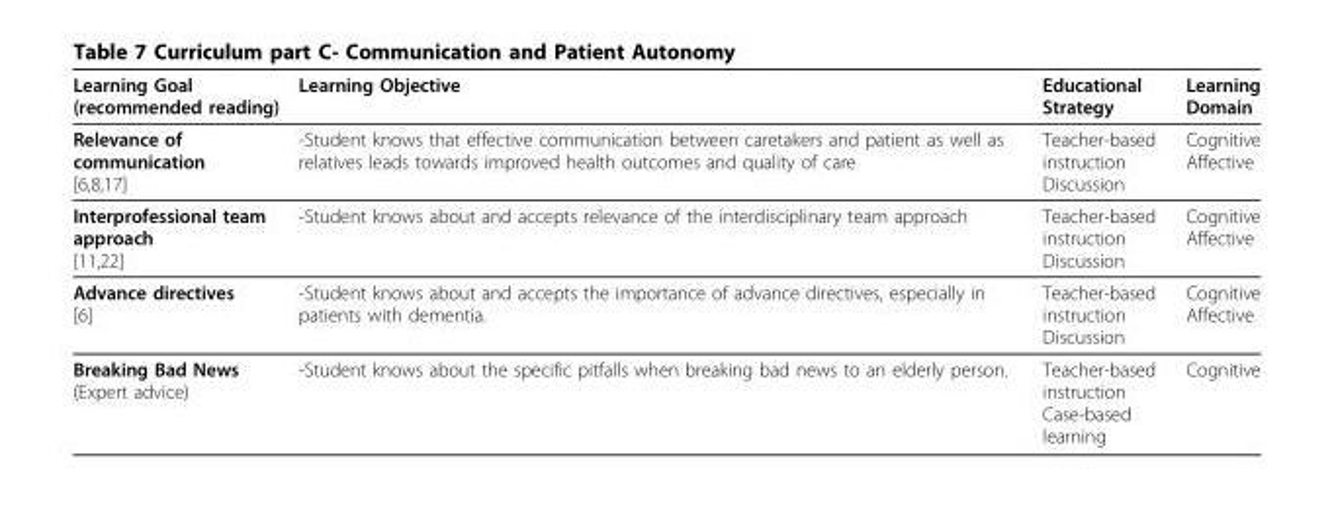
<table><thead><tr><td>Learning Goal (recommended reading)</td><td>Learning Objective</td><td>Educational Strategy</td><td>Learning Domain</td></tr></thead><tbody><tr><td>Relevance of communication [6,8,17]</td><td>-Student knows that effective communication between caretakers and patient as well as relatives leads towards improved health outcomes and quality of care</td><td>Teacher-based instruction Discussion</td><td>Cognitive Affective</td></tr><tr><td>Interprofessional team approach [11,22]</td><td>-Student knows about and accepts relevance of the interdisciplinary team approach</td><td>Teacher-based instruction Discussion</td><td>Cognitive Affective</td></tr><tr><td>Advance directives [6]</td><td>-Student knows about and accepts the importance of advance directives, especially in patients with dementia.</td><td>Teacher-based instruction Discussion</td><td>Cognitive Affective</td></tr><tr><td>Breaking Bad News (Expert advice)</td><td>-Student knows about the specific pitfalls when breaking bad news to an elderly person.</td><td>Teacher-based instruction Case-based learning</td><td>Cognitive</td></tr></tbody></table>